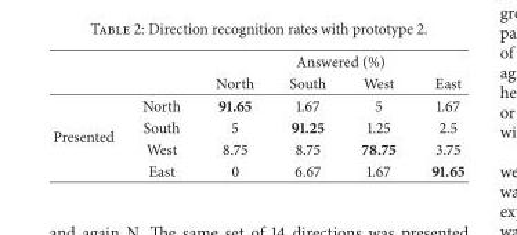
<table><thead><tr><td rowspan="2"></td><td rowspan="2"></td><td colspan="4">Answered (%)</td></tr><tr><td>North</td><td>South</td><td>West</td><td>East</td></tr></thead><tbody><tr><td rowspan="4">Presented</td><td>North</td><td>91.65</td><td>1.67</td><td>5</td><td>1.67</td></tr><tr><td>South</td><td>5</td><td>91.25</td><td>1.25</td><td>2.5</td></tr><tr><td>West</td><td>8.75</td><td>8.75</td><td>78.75</td><td>3.75</td></tr><tr><td>East</td><td>0</td><td>6.67</td><td>1.67</td><td>91.65</td></tr></tbody></table>